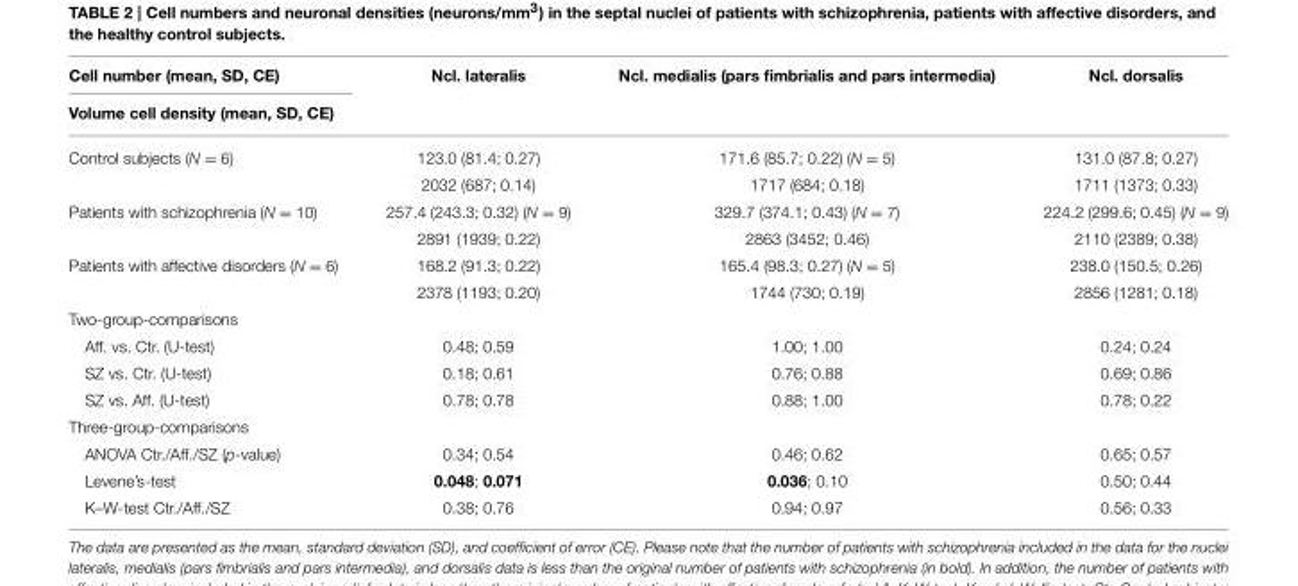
<table><thead><tr><td rowspan="2">Cell number (mean, SD, CE) Volume cell density (mean, SD, CE)</td><td rowspan="2">Ncl. lateralis</td><td rowspan="2">Ncl. medialis (pars fimbrialis and pars intermedia)</td><td rowspan="2">Ncl. dorsalis</td></tr><tr></tr></thead><tbody><tr><td rowspan="2">Control subjects (N = 6)</td><td>123.0 (81.4; 0.27)</td><td>171.6 (85.7; 0.22) (N = 5)</td><td>131.0 (87.8; 0.27)</td></tr><tr><td>2032 (687; 0.14)</td><td>1717 (684; 0.18)</td><td>1711 (1373; 0.33)</td></tr><tr><td rowspan="2">Patients with schizophrenia (N = 10)</td><td>257.4 (243.3; 0.32) (N = 9)</td><td>329.7 (374.1; 0.43) (N = 7)</td><td>224.2 (299.6; 0.45) (N = 9)</td></tr><tr><td>2891 (1939; 0.22)</td><td>2863 (3452; 0.46)</td><td>2110 (2389; 0.38)</td></tr><tr><td rowspan="2">Patients with affective disorders (N = 6)</td><td>168.2 (91.3; 0.22)</td><td>165.4 (98.3; 0.27) (N = 5)</td><td>238.0 (150.5; 0.26)</td></tr><tr><td>2378 (1193; 0.20)</td><td>1744 (730; 0.19)</td><td>2856 (1281; 0.18)</td></tr><tr><td colspan="4">Two-group-comparisons</td></tr><tr><td>Aff. vs. Ctr. (U-test)</td><td>0.48; 0.59</td><td>1.00; 1.00</td><td>0.24; 0.24</td></tr><tr><td>SZ vs. Ctr. (U-test)</td><td>0.18; 0.61</td><td>0.76; 0.88</td><td>0.69; 0.86</td></tr><tr><td>SZ vs. Aff. (U-test)</td><td>0.78; 0.78</td><td>0.88; 1.00</td><td>0.78; 0.22</td></tr><tr><td colspan="4">Three-group-comparisons</td></tr><tr><td>ANOVA Ctr./Aff./SZ (p-value)</td><td>0.34; 0.54</td><td>0.46; 0.62</td><td>0.65; 0.57</td></tr><tr><td>Levene’s-test</td><td>0.048; 0.071</td><td>0.036; 0.10</td><td>0.50; 0.44</td></tr><tr><td>K–W-test Ctr./Aff./SZ</td><td>0.38; 0.76</td><td>0.94; 0.97</td><td>0.56; 0.33</td></tr></tbody></table>